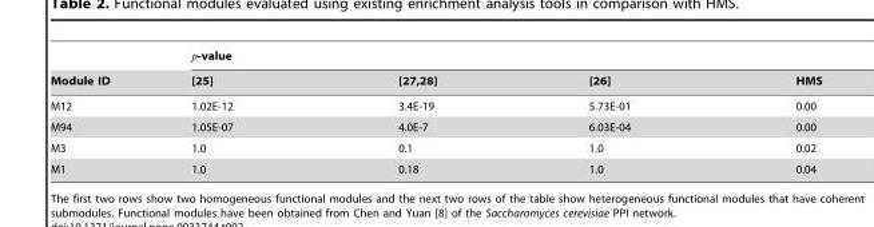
<table><thead><tr><td rowspan="2">Module ID</td><td colspan="4">p-value</td></tr><tr><td>[25]</td><td>[27,28]</td><td>[26]</td><td>HMS</td></tr></thead><tbody><tr><td>M12</td><td>1.02E-12</td><td>3.4E-19</td><td>5.73E-01</td><td>0.00</td></tr><tr><td>M94</td><td>1.05E-07</td><td>4.0E-7</td><td>6.03E-04</td><td>0.00</td></tr><tr><td>M3</td><td>1.0</td><td>0.1</td><td>1.0</td><td>0.02</td></tr><tr><td>M1</td><td>1.0</td><td>0.18</td><td>1.0</td><td>0.04</td></tr></tbody></table>